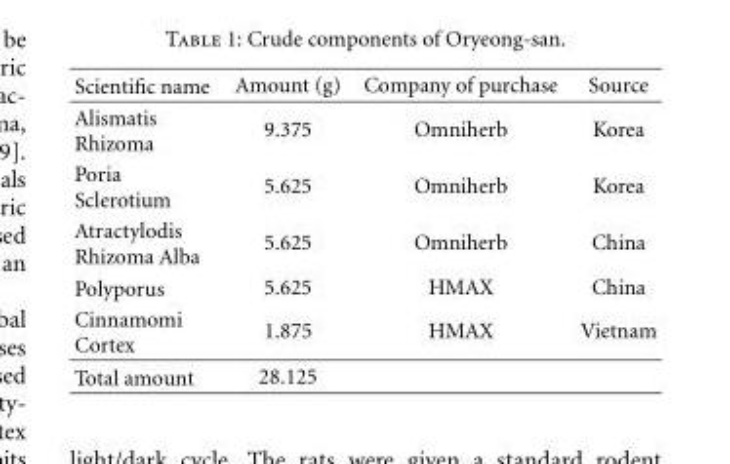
<table><thead><tr><td>Scientific name</td><td>Amount (g)</td><td>Company of purchase</td><td>Source</td></tr></thead><tbody><tr><td>Alismatis Rhizoma</td><td>9.375</td><td>Omniherb</td><td>Korea</td></tr><tr><td>Poria Sclerotium</td><td>5.625</td><td>Omniherb</td><td>Korea</td></tr><tr><td>Atractylodis Rhizoma Alba</td><td>5.625</td><td>Omniherb</td><td>China</td></tr><tr><td>Polyporus</td><td>5.625</td><td>HMAX</td><td>China</td></tr><tr><td>Cinnamomi Cortex</td><td>1.875</td><td>HMAX</td><td>Vietnam</td></tr><tr><td>Total amount</td><td>28.125</td><td></td><td></td></tr></tbody></table>